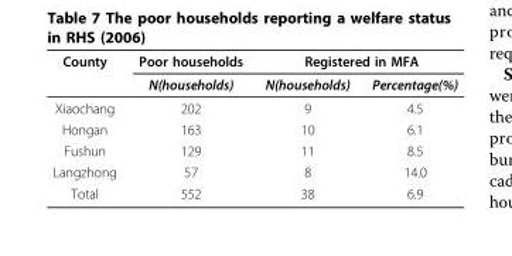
<table><thead><tr><td rowspan="2">County</td><td rowspan="2">Poor households N(households)</td><td colspan="2">Registered in MFA</td></tr><tr><td>N(households)</td><td>Percentage(%)</td></tr></thead><tbody><tr><td>Xiaochang</td><td>202</td><td>9</td><td>4.5</td></tr><tr><td>Hongan</td><td>163</td><td>10</td><td>6.1</td></tr><tr><td>Fushun</td><td>129</td><td>11</td><td>8.5</td></tr><tr><td>Langzhong</td><td>57</td><td>8</td><td>14.0</td></tr><tr><td>Total</td><td>552</td><td>38</td><td>6.9</td></tr></tbody></table>